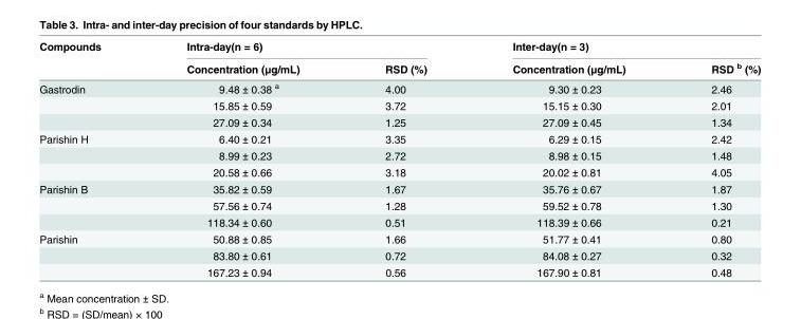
<table><thead><tr><td rowspan="2">Compounds</td><td colspan="2">Intra-day(n = 6)</td><td colspan="2">Inter-day(n = 3)</td></tr><tr><td>Concentration (μg/mL)</td><td>RSD (%)</td><td>Concentration (μg/mL)</td><td>RSD <sup>b</sup> (%)</td></tr></thead><tbody><tr><td rowspan="3">Gastrodin</td><td>9.48 ± 0.38 <sup>a</sup></td><td>4.00</td><td>9.30 ± 0.23</td><td>2.46</td></tr><tr><td>15.85 ± 0.59</td><td>3.72</td><td>15.15 ± 0.30</td><td>2.01</td></tr><tr><td>27.09 ± 0.34</td><td>1.25</td><td>27.09 ± 0.45</td><td>1.34</td></tr><tr><td rowspan="3">Parishin H</td><td>6.40 ± 0.21</td><td>3.35</td><td>6.29 ± 0.15</td><td>2.42</td></tr><tr><td>8.99 ± 0.23</td><td>2.72</td><td>8.98 ± 0.15</td><td>1.48</td></tr><tr><td>20.58 ± 0.66</td><td>3.18</td><td>20.02 ± 0.81</td><td>4.05</td></tr><tr><td rowspan="3">Parishin B</td><td>35.82 ± 0.59</td><td>1.67</td><td>35.76 ± 0.67</td><td>1.87</td></tr><tr><td>57.56 ± 0.74</td><td>1.28</td><td>59.52 ± 0.78</td><td>1.30</td></tr><tr><td>118.34 ± 0.60</td><td>0.51</td><td>118.39 ± 0.66</td><td>0.21</td></tr><tr><td rowspan="3">Parishin</td><td>50.88 ± 0.85</td><td>1.66</td><td>51.77 ± 0.41</td><td>0.80</td></tr><tr><td>83.80 ± 0.61</td><td>0.72</td><td>84.08 ± 0.27</td><td>0.32</td></tr><tr><td>167.23 ± 0.94</td><td>0.56</td><td>167.90 ± 0.81</td><td>0.48</td></tr></tbody></table>